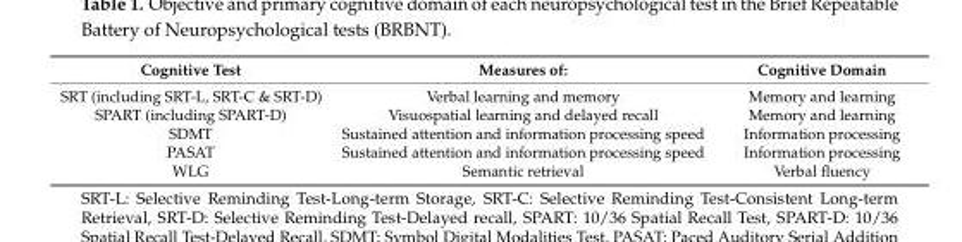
<table><thead><tr><td>Cognitive Test</td><td>Measures of:</td><td>Cognitive Domain</td></tr></thead><tbody><tr><td>SRT (including SRT-L, SRT-C &amp; SRT-D)</td><td>Verbal learning and memory</td><td>Memory and learning</td></tr><tr><td>SPART (including SPART-D)</td><td>Visuospatial learning and delayed recall</td><td>Memory and learning</td></tr><tr><td>SDMT</td><td>Sustained attention and information processing speed</td><td>Information processing</td></tr><tr><td>PASAT</td><td>Sustained attention and information processing speed</td><td>Information processing</td></tr><tr><td>WLG</td><td>Semantic retrieval</td><td>Verbal fluency</td></tr></tbody></table>